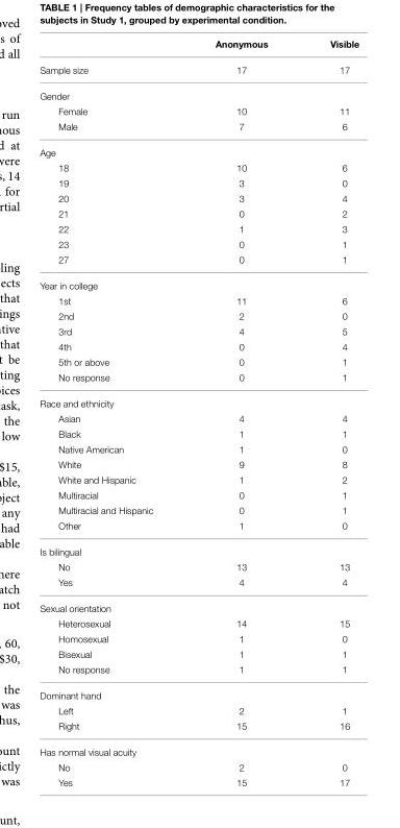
<table><thead><tr><td></td><td>Anonymous</td><td>Visible</td></tr></thead><tbody><tr><td>Sample size</td><td>17</td><td>17</td></tr><tr><td colspan="3">Gender</td></tr><tr><td>Female</td><td>10</td><td>11</td></tr><tr><td>Male</td><td>7</td><td>6</td></tr><tr><td colspan="3">Age</td></tr><tr><td>18</td><td>10</td><td>6</td></tr><tr><td>19</td><td>3</td><td>0</td></tr><tr><td>20</td><td>3</td><td>4</td></tr><tr><td>21</td><td>0</td><td>2</td></tr><tr><td>22</td><td>1</td><td>3</td></tr><tr><td>23</td><td>0</td><td>1</td></tr><tr><td>27</td><td>0</td><td>1</td></tr><tr><td colspan="3">Year in college</td></tr><tr><td>1st</td><td>11</td><td>6</td></tr><tr><td>2nd</td><td>2</td><td>0</td></tr><tr><td>3rd</td><td>4</td><td>5</td></tr><tr><td>4th</td><td>0</td><td>4</td></tr><tr><td>5th or above</td><td>0</td><td>1</td></tr><tr><td>No response</td><td>0</td><td>1</td></tr><tr><td colspan="3">Race and ethnicity</td></tr><tr><td>Asian</td><td>4</td><td>4</td></tr><tr><td>Black</td><td>1</td><td>1</td></tr><tr><td>Native American</td><td>1</td><td>0</td></tr><tr><td>White</td><td>9</td><td>8</td></tr><tr><td>White and Hispanic</td><td>1</td><td>2</td></tr><tr><td>Multiracial</td><td>0</td><td>1</td></tr><tr><td>Multiracial and Hispanic</td><td>0</td><td>1</td></tr><tr><td>Other</td><td>1</td><td>0</td></tr><tr><td colspan="3">Is bilingual</td></tr><tr><td>No</td><td>13</td><td>13</td></tr><tr><td>Yes</td><td>4</td><td>4</td></tr><tr><td colspan="3">Sexual orientation</td></tr><tr><td>Heterosexual</td><td>14</td><td>15</td></tr><tr><td>Homosexual</td><td>1</td><td>0</td></tr><tr><td>Bisexual</td><td>1</td><td>1</td></tr><tr><td>No response</td><td>1</td><td>1</td></tr><tr><td colspan="3">Dominant hand</td></tr><tr><td>Left</td><td>2</td><td>1</td></tr><tr><td>Right</td><td>15</td><td>16</td></tr><tr><td colspan="3">Has normal visual acuity</td></tr><tr><td>No</td><td>2</td><td>0</td></tr><tr><td>Yes</td><td>15</td><td>17</td></tr></tbody></table>